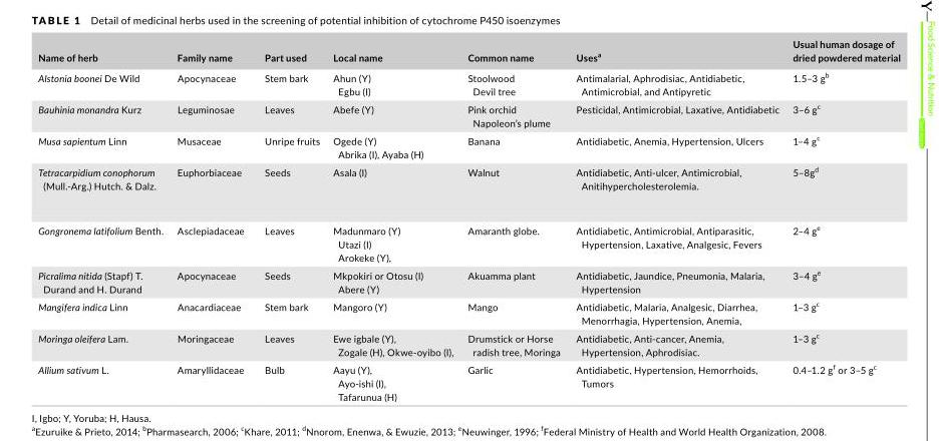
<table><thead><tr><td>Name of herb</td><td>Family name</td><td>Part used</td><td>Local name</td><td>Common name</td><td>Uses<sup>a</sup></td><td>Usual human dosage of dried powdered material</td></tr></thead><tbody><tr><td>Alstonia boonei De Wild</td><td>Apocynaceae</td><td>Stem bark</td><td>Ahun (Y) Egbu (I)</td><td>Stoolwood Devil tree</td><td>Antimalarial, Aphrodisiac, Antidiabetic, Antimicrobial, and Antipyretic</td><td>1.5–3 g<sup>b</sup></td></tr><tr><td>Bauhinia monandra Kurz</td><td>Leguminosae</td><td>Leaves</td><td>Abefe (Y)</td><td>Pink orchid Napoleon’s plume</td><td>Pesticidal, Antimicrobial, Laxative, Antidiabetic</td><td>3–6 g<sup>c</sup></td></tr><tr><td>Musa sapientum Linn</td><td>Musaceae</td><td>Unripe fruits</td><td>Ogede (Y) Abrika (I), Ayaba (H)</td><td>Banana</td><td>Antidiabetic, Anemia, Hypertension, Ulcers</td><td>1–4 g<sup>c</sup></td></tr><tr><td>Tetracarpidium conophorum (Mull.- Arg.) Hutch. &amp; Dalz.</td><td>Euphorbiaceae</td><td>Seeds</td><td>Asala (I)</td><td>Walnut</td><td>Antidiabetic, Anti- ulcer, Antimicrobial, Anitihypercholesterolemia.</td><td>5–8g<sup>d</sup></td></tr><tr><td>Gongronema latifolium Benth.</td><td>Asclepiadaceae</td><td>Leaves</td><td>Madunmaro (Y) Utazi (I) Arokeke (Y),</td><td>Amaranth globe.</td><td>Antidiabetic, Antimicrobial, Antiparasitic, Hypertension, Laxative, Analgesic, Fevers</td><td>2–4 g<sup>e</sup></td></tr><tr><td>Picralima nitida (Stapf) T. Durand and H. Durand</td><td>Apocynaceae</td><td>Seeds</td><td>Mkpokiri or Otosu (I) Abere (Y)</td><td>Akuamma plant</td><td>Antidiabetic, Jaundice, Pneumonia, Malaria, Hypertension</td><td>3–4 g<sup>e</sup></td></tr><tr><td>Mangifera indica Linn</td><td>Anacardiaceae</td><td>Stem bark</td><td>Mangoro (Y)</td><td>Mango</td><td>Antidiabetic, Malaria, Analgesic, Diarrhea, Menorrhagia, Hypertension, Anemia,</td><td>1–3 g<sup>c</sup></td></tr><tr><td>Moringa oleifera Lam.</td><td>Moringaceae</td><td>Leaves</td><td>Ewe igbale (Y), Zogale (H), Okwe- oyibo (I),</td><td>Drumstick or Horse radish tree, Moringa</td><td>Antidiabetic, Anti- cancer, Anemia, Hypertension, Aphrodisiac.</td><td>1–3 g<sup>c</sup></td></tr><tr><td>Allium sativum L.</td><td>Amaryllidaceae</td><td>Bulb</td><td>Aayu (Y), Ayo- ishi (I), Tafarunua (H)</td><td>Garlic</td><td>Antidiabetic, Hypertension, Hemorrhoids, Tumors</td><td>0.4–1.2 g<sup>f</sup> or 3–5 g<sup>c</sup></td></tr></tbody></table>